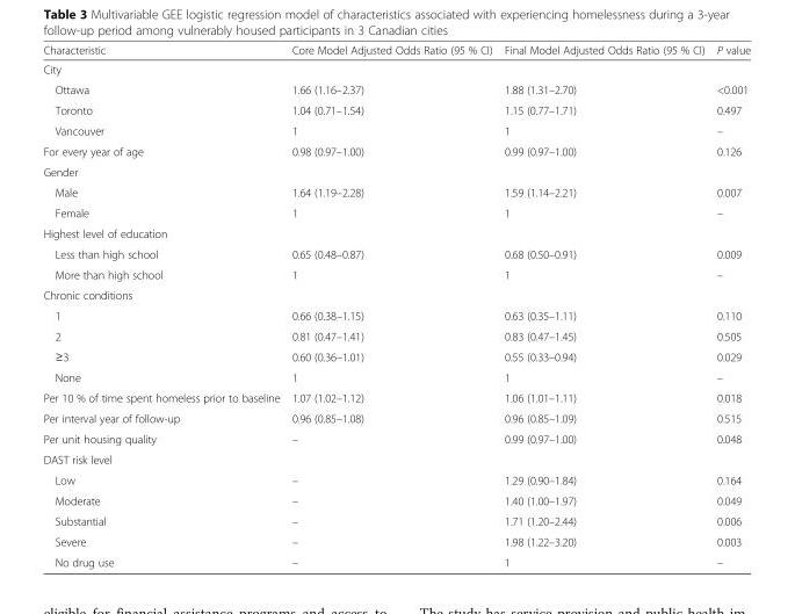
<table><thead><tr><td>Characteristic</td><td>Core Model Adjusted Odds Ratio (95 % CI)</td><td>Final Model Adjusted Odds Ratio (95 % CI)</td><td>P value</td></tr></thead><tbody><tr><td colspan="4">City</td></tr><tr><td>Ottawa</td><td>1.66 (1.16–2.37)</td><td>1.88 (1.31–2.70)</td><td>&lt;0.001</td></tr><tr><td>Toronto</td><td>1.04 (0.71–1.54)</td><td>1.15 (0.77–1.71)</td><td>0.497</td></tr><tr><td>Vancouver</td><td>1</td><td>1</td><td>–</td></tr><tr><td>For every year of age</td><td>0.98 (0.97–1.00)</td><td>0.99 (0.97–1.00)</td><td>0.126</td></tr><tr><td colspan="4">Gender</td></tr><tr><td>Male</td><td>1.64 (1.19–2.28)</td><td>1.59 (1.14–2.21)</td><td>0.007</td></tr><tr><td>Female</td><td>1</td><td>1</td><td>–</td></tr><tr><td colspan="4">Highest level of education</td></tr><tr><td>Less than high school</td><td>0.65 (0.48–0.87)</td><td>0.68 (0.50–0.91)</td><td>0.009</td></tr><tr><td>More than high school</td><td>1</td><td>1</td><td>–</td></tr><tr><td colspan="4">Chronic conditions</td></tr><tr><td>1</td><td>0.66 (0.38–1.15)</td><td>0.63 (0.35–1.11)</td><td>0.110</td></tr><tr><td>2</td><td>0.81 (0.47–1.41)</td><td>0.83 (0.47–1.45)</td><td>0.505</td></tr><tr><td>≥3</td><td>0.60 (0.36–1.01)</td><td>0.55 (0.33–0.94)</td><td>0.029</td></tr><tr><td>None</td><td>1</td><td>1</td><td>–</td></tr><tr><td>Per 10 % of time spent homeless prior to baseline</td><td>1.07 (1.02–1.12)</td><td>1.06 (1.01–1.11)</td><td>0.018</td></tr><tr><td>Per interval year of follow-up</td><td>0.96 (0.85–1.08)</td><td>0.96 (0.85–1.09)</td><td>0.515</td></tr><tr><td>Per unit housing quality</td><td>–</td><td>0.99 (0.97–1.00)</td><td>0.048</td></tr><tr><td colspan="4">DAST risk level</td></tr><tr><td>Low</td><td>–</td><td>1.29 (0.90–1.84)</td><td>0.164</td></tr><tr><td>Moderate</td><td>–</td><td>1.40 (1.00–1.97)</td><td>0.049</td></tr><tr><td>Substantial</td><td>–</td><td>1.71 (1.20–2.44)</td><td>0.006</td></tr><tr><td>Severe</td><td>–</td><td>1.98 (1.22–3.20)</td><td>0.003</td></tr><tr><td>No drug use</td><td>–</td><td>1</td><td>–</td></tr></tbody></table>